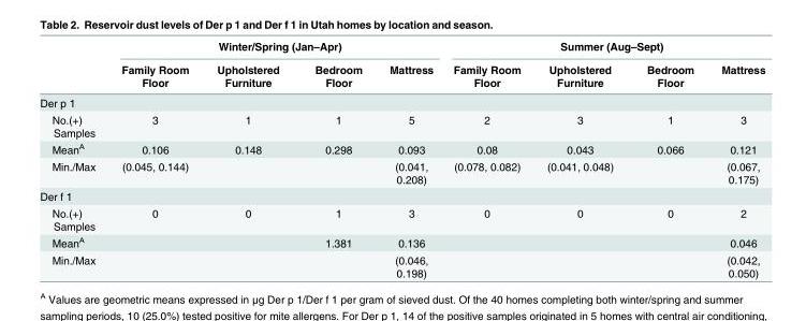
<table><thead><tr><td rowspan="2"></td><td colspan="4">Winter/Spring (Jan–Apr)</td><td colspan="4">Summer (Aug–Sept)</td></tr><tr><td>Family Room Floor</td><td>Upholstered Furniture</td><td>Bedroom Floor</td><td>Mattress</td><td>Family Room Floor</td><td>Upholstered Furniture</td><td>Bedroom Floor</td><td>Mattress</td></tr></thead><tbody><tr><td colspan="9">Der p 1</td></tr><tr><td>No.(+) Samples</td><td>3</td><td>1</td><td>1</td><td>5</td><td>2</td><td>3</td><td>1</td><td>3</td></tr><tr><td>Mean<sup>A</sup></td><td>0.106</td><td>0.148</td><td>0.298</td><td>0.093</td><td>0.08</td><td>0.043</td><td>0.066</td><td>0.121</td></tr><tr><td>Min./Max</td><td>(0.045, 0.144)</td><td></td><td></td><td>(0.041, 0.208)</td><td>(0.078, 0.082)</td><td>(0.041, 0.048)</td><td></td><td>(0.067, 0.175)</td></tr><tr><td colspan="9">Der f 1</td></tr><tr><td>No.(+) Samples</td><td>0</td><td>0</td><td>1</td><td>3</td><td>0</td><td>0</td><td>0</td><td>2</td></tr><tr><td>Mean<sup>A</sup></td><td></td><td></td><td>1.381</td><td>0.136</td><td></td><td></td><td></td><td>0.046</td></tr><tr><td>Min./Max</td><td></td><td></td><td></td><td>(0.046, 0.198)</td><td></td><td></td><td></td><td>(0.042, 0.050)</td></tr></tbody></table>